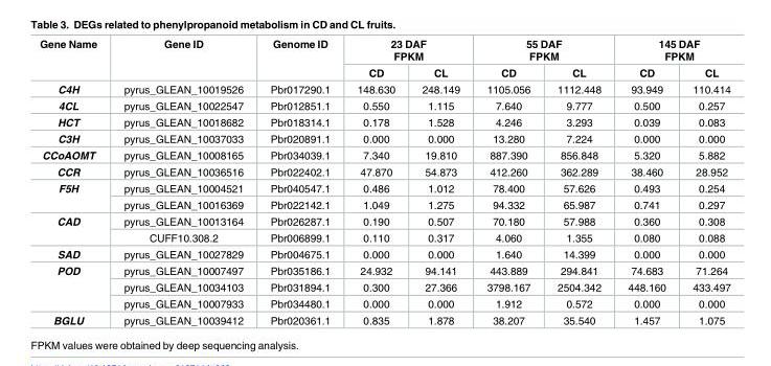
<table><thead><tr><td rowspan="2">Gene Name</td><td rowspan="2">Gene ID</td><td rowspan="2">Genome ID</td><td colspan="2">23 DAF FPKM</td><td colspan="2">55 DAF FPKM</td><td colspan="2">145 DAF FPKM</td></tr><tr><td>CD</td><td>CL</td><td>CD</td><td>CL</td><td>CD</td><td>CL</td></tr></thead><tbody><tr><td>C4H</td><td>pyrus_GLEAN_10019526</td><td>Pbr017290.1</td><td>148.630</td><td>248.149</td><td>1105.056</td><td>1112.448</td><td>93.949</td><td>110.414</td></tr><tr><td>4CL</td><td>pyrus_GLEAN_10022547</td><td>Pbr012851.1</td><td>0.550</td><td>1.115</td><td>7.640</td><td>9.777</td><td>0.500</td><td>0.257</td></tr><tr><td>HCT</td><td>pyrus_GLEAN_10018682</td><td>Pbr018314.1</td><td>0.178</td><td>1.528</td><td>4.246</td><td>3.293</td><td>0.039</td><td>0.083</td></tr><tr><td>C3H</td><td>pyrus_GLEAN_10037033</td><td>Pbr020891.1</td><td>0.000</td><td>0.000</td><td>13.280</td><td>7.224</td><td>0.000</td><td>0.000</td></tr><tr><td>CCoAOMT</td><td>pyrus_GLEAN_10008165</td><td>Pbr034039.1</td><td>7.340</td><td>19.810</td><td>887.390</td><td>856.848</td><td>5.320</td><td>5.882</td></tr><tr><td>CCR</td><td>pyrus_GLEAN_10036516</td><td>Pbr022402.1</td><td>47.870</td><td>54.873</td><td>412.260</td><td>362.289</td><td>38.460</td><td>28.952</td></tr><tr><td rowspan="2">F5H</td><td>pyrus_GLEAN_10004521</td><td>Pbr040547.1</td><td>0.486</td><td>1.012</td><td>78.400</td><td>57.626</td><td>0.493</td><td>0.254</td></tr><tr><td>pyrus_GLEAN_10016369</td><td>Pbr022142.1</td><td>1.049</td><td>1.275</td><td>94.332</td><td>65.987</td><td>0.741</td><td>0.297</td></tr><tr><td rowspan="2">CAD</td><td>pyrus_GLEAN_10013164</td><td>Pbr026287.1</td><td>0.190</td><td>0.507</td><td>70.180</td><td>57.988</td><td>0.360</td><td>0.308</td></tr><tr><td>CUFF10.308.2</td><td>Pbr006899.1</td><td>0.110</td><td>0.317</td><td>4.060</td><td>1.355</td><td>0.080</td><td>0.088</td></tr><tr><td>SAD</td><td>pyrus_GLEAN_10027829</td><td>Pbr004675.1</td><td>0.000</td><td>0.000</td><td>1.640</td><td>14.399</td><td>0.000</td><td>0.000</td></tr><tr><td rowspan="3">POD</td><td>pyrus_GLEAN_10007497</td><td>Pbr035186.1</td><td>24.932</td><td>94.141</td><td>443.889</td><td>294.841</td><td>74.683</td><td>71.264</td></tr><tr><td>pyrus_GLEAN_10034103</td><td>Pbr031894.1</td><td>0.300</td><td>27.366</td><td>3798.167</td><td>2504.342</td><td>448.160</td><td>433.497</td></tr><tr><td>pyrus_GLEAN_10007933</td><td>Pbr034480.1</td><td>0.000</td><td>0.000</td><td>1.912</td><td>0.572</td><td>0.000</td><td>0.000</td></tr><tr><td>BGLU</td><td>pyrus_GLEAN_10039412</td><td>Pbr020361.1</td><td>0.835</td><td>1.878</td><td>38.207</td><td>35.540</td><td>1.457</td><td>1.075</td></tr></tbody></table>